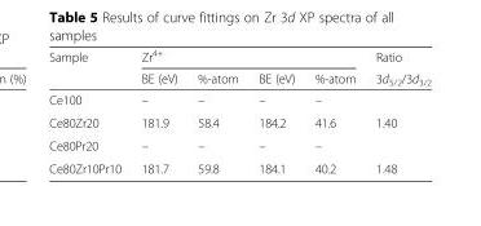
<table><thead><tr><td rowspan="2">Sample</td><td colspan="4">Zr<sup>4+</sup></td><td rowspan="2">Ratio 3d<sub>5/2</sub>/3d<sub>3/2</sub></td></tr><tr><td>BE (eV)</td><td>%-atom</td><td>BE (eV)</td><td>%-atom</td></tr></thead><tbody><tr><td>Ce100</td><td>–</td><td>–</td><td>–</td><td>–</td><td></td></tr><tr><td>Ce80Zr20</td><td>181.9</td><td>58.4</td><td>184.2</td><td>41.6</td><td>1.40</td></tr><tr><td>Ce80Pr20</td><td>–</td><td>–</td><td>–</td><td>–</td><td></td></tr><tr><td>Ce80Zr10Pr10</td><td>181.7</td><td>59.8</td><td>184.1</td><td>40.2</td><td>1.48</td></tr></tbody></table>